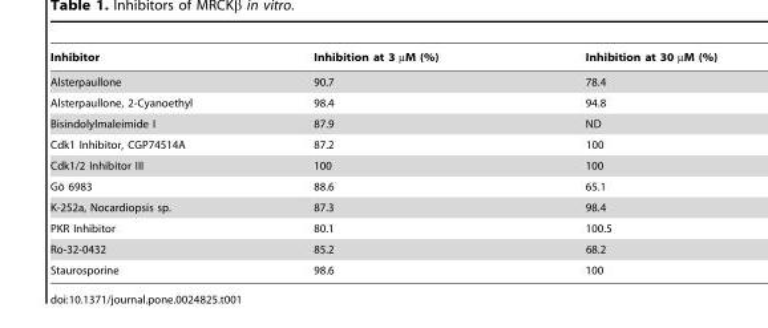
<table><thead><tr><td>Inhibitor</td><td>Inhibition at 3 µM (%)</td><td>Inhibition at 30 µM (%)</td></tr></thead><tbody><tr><td>Alsterpaullone</td><td>90.7</td><td>78.4</td></tr><tr><td>Alsterpaullone, 2-Cyanoethyl</td><td>98.4</td><td>94.8</td></tr><tr><td>Bisindolylmaleimide I</td><td>87.9</td><td>ND</td></tr><tr><td>Cdk1 Inhibitor, CGP74514A</td><td>87.2</td><td>100</td></tr><tr><td>Cdk1/2 Inhibitor III</td><td>100</td><td>100</td></tr><tr><td>Go¨ 6983</td><td>88.6</td><td>65.1</td></tr><tr><td>K-252a, Nocardiopsis sp.</td><td>87.3</td><td>98.4</td></tr><tr><td>PKR Inhibitor</td><td>80.1</td><td>100.5</td></tr><tr><td>Ro-32-0432</td><td>85.2</td><td>68.2</td></tr><tr><td>Staurosporine</td><td>98.6</td><td>100</td></tr></tbody></table>